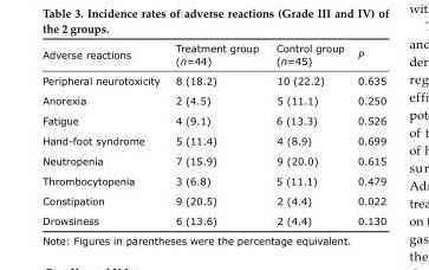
<table><thead><tr><td>Adverse reactions</td><td>Treatment group (n=44)</td><td>Control group (n=45)</td><td>P</td></tr></thead><tbody><tr><td>Peripheral neurotoxicity</td><td>8 (18.2)</td><td>10 (22.2)</td><td>0.635</td></tr><tr><td>Anorexia</td><td>2 (4.5)</td><td>5 (11.1)</td><td>0.250</td></tr><tr><td>Fatigue</td><td>4 (9.1)</td><td>6 (13.3)</td><td>0.526</td></tr><tr><td>Hand-foot syndrome</td><td>5 (11.4)</td><td>4 (8.9)</td><td>0.699</td></tr><tr><td>Neutropenia</td><td>7 (15.9)</td><td>9 (20.0)</td><td>0.615</td></tr><tr><td>Thrombocytopenia</td><td>3 (6.8)</td><td>5 (11.1)</td><td>0.479</td></tr><tr><td>Constipation</td><td>9 (20.5)</td><td>2 (4.4)</td><td>0.022</td></tr><tr><td>Drowsiness</td><td>6 (13.6)</td><td>2 (4.4)</td><td>0.130</td></tr></tbody></table>